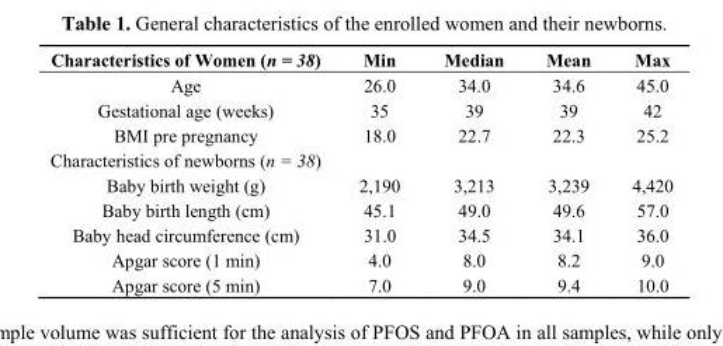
<table><thead><tr><td>Characteristics of Women (n = 38)</td><td>Min</td><td>Median</td><td>Mean</td><td>Max</td></tr></thead><tbody><tr><td>Age</td><td>26.0</td><td>34.0</td><td>34.6</td><td>45.0</td></tr><tr><td>Gestational age (weeks)</td><td>35</td><td>39</td><td>39</td><td>42</td></tr><tr><td>BMI pre pregnancy</td><td>18.0</td><td>22.7</td><td>22.3</td><td>25.2</td></tr><tr><td colspan="5">Characteristics of newborns (n = 38)</td></tr><tr><td>Baby birth weight (g)</td><td>2,190</td><td>3,213</td><td>3,239</td><td>4,420</td></tr><tr><td>Baby birth length (cm)</td><td>45.1</td><td>49.0</td><td>49.6</td><td>57.0</td></tr><tr><td>Baby head circumference (cm)</td><td>31.0</td><td>34.5</td><td>34.1</td><td>36.0</td></tr><tr><td>Apgar score (1 min)</td><td>4.0</td><td>8.0</td><td>8.2</td><td>9.0</td></tr><tr><td>Apgar score (5 min)</td><td>7.0</td><td>9.0</td><td>9.4</td><td>10.0</td></tr></tbody></table>